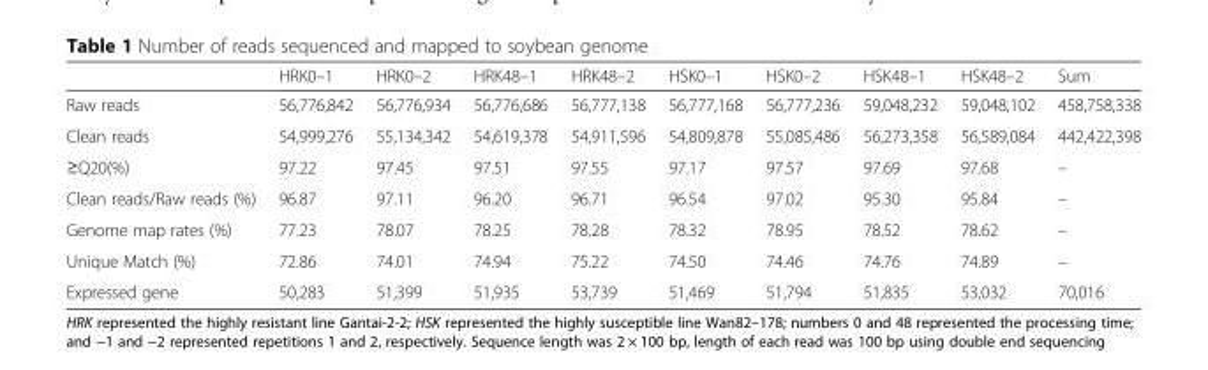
<table><thead><tr><td></td><td>HRK0–1</td><td>HRK0–2</td><td>HRK48–1</td><td>HRK48–2</td><td>HSK0–1</td><td>HSK0–2</td><td>HSK48–1</td><td>HSK48–2</td><td>Sum</td></tr></thead><tbody><tr><td>Raw reads</td><td>56,776,842</td><td>56,776,934</td><td>56,776,686</td><td>56,777,138</td><td>56,777,168</td><td>56,777,236</td><td>59,048,232</td><td>59,048,102</td><td>458,758,338</td></tr><tr><td>Clean reads</td><td>54,999,276</td><td>55,134,342</td><td>54,619,378</td><td>54,911,596</td><td>54,809,878</td><td>55,085,486</td><td>56,273,358</td><td>56,589,084</td><td>442,422,398</td></tr><tr><td>≥Q20(%)</td><td>97.22</td><td>97.45</td><td>97.51</td><td>97.55</td><td>97.17</td><td>97.57</td><td>97.69</td><td>97.68</td><td>–</td></tr><tr><td>Clean reads/Raw reads (%)</td><td>96.87</td><td>97.11</td><td>96.20</td><td>96.71</td><td>96.54</td><td>97.02</td><td>95.30</td><td>95.84</td><td>–</td></tr><tr><td>Genome map rates (%)</td><td>77.23</td><td>78.07</td><td>78.25</td><td>78.28</td><td>78.32</td><td>78.95</td><td>78.52</td><td>78.62</td><td>–</td></tr><tr><td>Unique Match (%)</td><td>72.86</td><td>74.01</td><td>74.94</td><td>75.22</td><td>74.50</td><td>74.46</td><td>74.76</td><td>74.89</td><td>–</td></tr><tr><td>Expressed gene</td><td>50,283</td><td>51,399</td><td>51,935</td><td>53,739</td><td>51,469</td><td>51,794</td><td>51,835</td><td>53,032</td><td>70,016</td></tr></tbody></table>